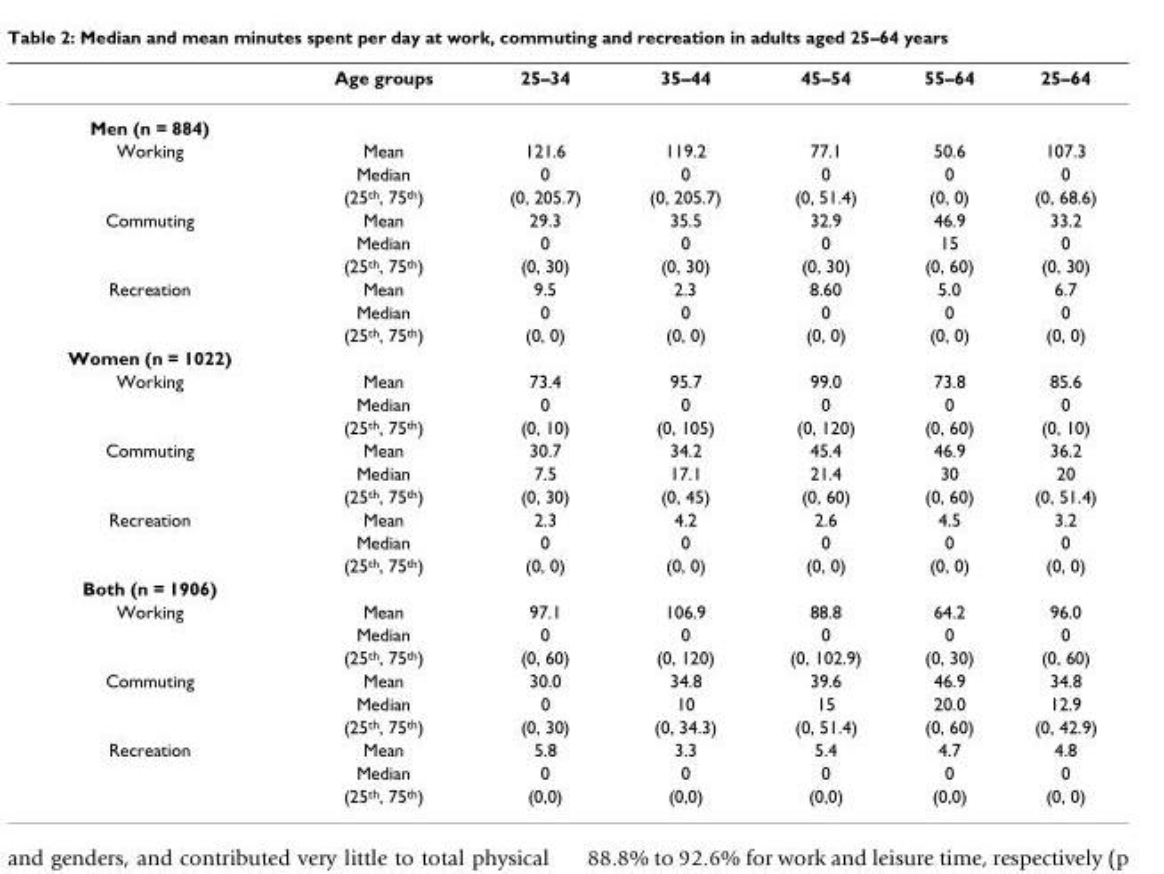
<table><thead><tr><td></td><td>Age groups</td><td>25–34</td><td>35–44</td><td>45–54</td><td>55–64</td><td>25–64</td></tr></thead><tbody><tr><td colspan="7">Men (n = 884)</td></tr><tr><td rowspan="3">Working</td><td>Mean</td><td>121.6</td><td>119.2</td><td>77.1</td><td>50.6</td><td>107.3</td></tr><tr><td>Median</td><td>0</td><td>0</td><td>0</td><td>0</td><td>0</td></tr><tr><td>(25<sup>th</sup>, 75<sup>th</sup>)</td><td>(0, 205.7)</td><td>(0, 205.7)</td><td>(0, 51.4)</td><td>(0, 0)</td><td>(0, 68.6)</td></tr><tr><td rowspan="3">Commuting</td><td>Mean</td><td>29.3</td><td>35.5</td><td>32.9</td><td>46.9</td><td>33.2</td></tr><tr><td>Median</td><td>0</td><td>0</td><td>0</td><td>15</td><td>0</td></tr><tr><td>(25<sup>th</sup>, 75<sup>th</sup>)</td><td>(0, 30)</td><td>(0, 30)</td><td>(0, 30)</td><td>(0, 60)</td><td>(0, 30)</td></tr><tr><td rowspan="3">Recreation</td><td>Mean</td><td>9.5</td><td>2.3</td><td>8.60</td><td>5.0</td><td>6.7</td></tr><tr><td>Median</td><td>0</td><td>0</td><td>0</td><td>0</td><td>0</td></tr><tr><td>(25<sup>th</sup>, 75<sup>th</sup>)</td><td>(0, 0)</td><td>(0, 0)</td><td>(0, 0)</td><td>(0, 0)</td><td>(0, 0)</td></tr><tr><td colspan="7">Women (n = 1022)</td></tr><tr><td rowspan="3">Working</td><td>Mean</td><td>73.4</td><td>95.7</td><td>99.0</td><td>73.8</td><td>85.6</td></tr><tr><td>Median</td><td>0</td><td>0</td><td>0</td><td>0</td><td>0</td></tr><tr><td>(25<sup>th</sup>, 75<sup>th</sup>)</td><td>(0, 10)</td><td>(0, 105)</td><td>(0, 120)</td><td>(0, 60)</td><td>(0, 10)</td></tr><tr><td rowspan="3">Commuting</td><td>Mean</td><td>30.7</td><td>34.2</td><td>45.4</td><td>46.9</td><td>36.2</td></tr><tr><td>Median</td><td>7.5</td><td>17.1</td><td>21.4</td><td>30</td><td>20</td></tr><tr><td>(25<sup>th</sup>, 75<sup>th</sup>)</td><td>(0, 30)</td><td>(0, 45)</td><td>(0, 60)</td><td>(0, 60)</td><td>(0, 51.4)</td></tr><tr><td rowspan="3">Recreation</td><td>Mean</td><td>2.3</td><td>4.2</td><td>2.6</td><td>4.5</td><td>3.2</td></tr><tr><td>Median</td><td>0</td><td>0</td><td>0</td><td>0</td><td>0</td></tr><tr><td>(25<sup>th</sup>, 75<sup>th</sup>)</td><td>(0, 0)</td><td>(0, 0)</td><td>(0, 0)</td><td>(0, 0)</td><td>(0, 0)</td></tr><tr><td colspan="7">Both (n = 1906)</td></tr><tr><td rowspan="3">Working</td><td>Mean</td><td>97.1</td><td>106.9</td><td>88.8</td><td>64.2</td><td>96.0</td></tr><tr><td>Median</td><td>0</td><td>0</td><td>0</td><td>0</td><td>0</td></tr><tr><td>(25<sup>th</sup>, 75<sup>th</sup>)</td><td>(0, 60)</td><td>(0, 120)</td><td>(0, 102.9)</td><td>(0, 30)</td><td>(0, 60)</td></tr><tr><td rowspan="3">Commuting</td><td>Mean</td><td>30.0</td><td>34.8</td><td>39.6</td><td>46.9</td><td>34.8</td></tr><tr><td>Median</td><td>0</td><td>10</td><td>15</td><td>20.0</td><td>12.9</td></tr><tr><td>(25<sup>th</sup>, 75<sup>th</sup>)</td><td>(0, 30)</td><td>(0, 34.3)</td><td>(0, 51.4)</td><td>(0, 60)</td><td>(0, 42.9)</td></tr><tr><td rowspan="3">Recreation</td><td>Mean</td><td>5.8</td><td>3.3</td><td>5.4</td><td>4.7</td><td>4.8</td></tr><tr><td>Median</td><td>0</td><td>0</td><td>0</td><td>0</td><td>0</td></tr><tr><td>(25<sup>th</sup>, 75<sup>th</sup>)</td><td>(0,0)</td><td>(0,0)</td><td>(0,0)</td><td>(0,0)</td><td>(0, 0)</td></tr></tbody></table>